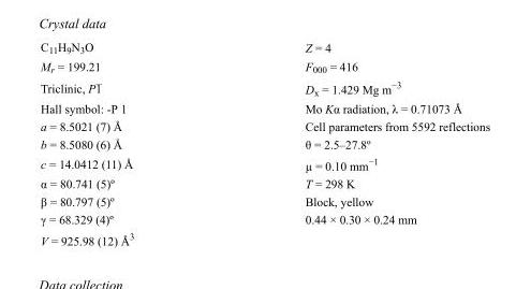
<table><tbody><tr><td>C<sub>11</sub>H<sub>9</sub>N<sub>3</sub>O</td><td>Z = 4</td></tr><tr><td>M<sub>r</sub> = 199.21</td><td>F000 = 416</td></tr><tr><td>Triclinic, P1</td><td>D<sub>x</sub> = 1.429 Mg m<sup>−3</sup></td></tr><tr><td>Hall symbol: -P 1</td><td>Mo Kα radiation, λ = 0.71073 Å</td></tr><tr><td>a = 8.5021 (7) Å</td><td>Cell parameters from 5592 reflections</td></tr><tr><td>b = 8.5080 (6) Å</td><td>θ = 2.5–27.8º</td></tr><tr><td>c = 14.0412 (11) Å</td><td>µ = 0.10 mm<sup>−1</sup></td></tr><tr><td>α = 80.741 (5)º</td><td>T = 298 K</td></tr><tr><td>β = 80.797 (5)º</td><td>Block, yellow</td></tr><tr><td>γ = 68.329 (4)º</td><td>0.44 × 0.30 × 0.24 mm</td></tr><tr><td>V = 925.98 (12) Å<sup>3</sup></td><td></td></tr></tbody></table>